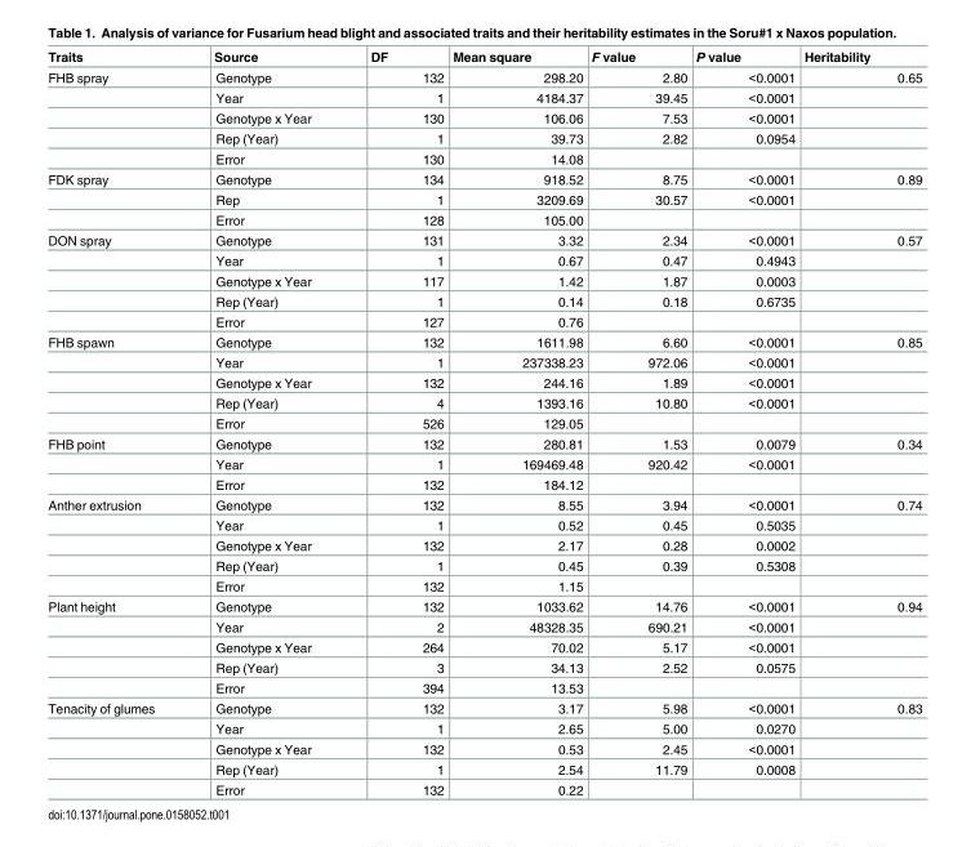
<table><thead><tr><td>Traits</td><td>Source</td><td>DF</td><td>Mean square</td><td>F value</td><td>P value</td><td>Heritability</td></tr></thead><tbody><tr><td rowspan="5">FHB spray</td><td>Genotype</td><td>132</td><td>298.20</td><td>2.80</td><td>&lt;0.0001</td><td>0.65</td></tr><tr><td>Year</td><td>1</td><td>4184.37</td><td>39.45</td><td>&lt;0.0001</td><td></td></tr><tr><td>Genotype x Year</td><td>130</td><td>106.06</td><td>7.53</td><td>&lt;0.0001</td><td></td></tr><tr><td>Rep (Year)</td><td>1</td><td>39.73</td><td>2.82</td><td>0.0954</td><td></td></tr><tr><td>Error</td><td>130</td><td>14.08</td><td></td><td></td><td></td></tr><tr><td rowspan="3">FDK spray</td><td>Genotype</td><td>134</td><td>918.52</td><td>8.75</td><td>&lt;0.0001</td><td>0.89</td></tr><tr><td>Rep</td><td>1</td><td>3209.69</td><td>30.57</td><td>&lt;0.0001</td><td></td></tr><tr><td>Error</td><td>128</td><td>105.00</td><td></td><td></td><td></td></tr><tr><td rowspan="5">DON spray</td><td>Genotype</td><td>131</td><td>3.32</td><td>2.34</td><td>&lt;0.0001</td><td>0.57</td></tr><tr><td>Year</td><td>1</td><td>0.67</td><td>0.47</td><td>0.4943</td><td></td></tr><tr><td>Genotype x Year</td><td>117</td><td>1.42</td><td>1.87</td><td>0.0003</td><td></td></tr><tr><td>Rep (Year)</td><td>1</td><td>0.14</td><td>0.18</td><td>0.6735</td><td></td></tr><tr><td>Error</td><td>127</td><td>0.76</td><td></td><td></td><td></td></tr><tr><td rowspan="5">FHB spawn</td><td>Genotype</td><td>132</td><td>1611.98</td><td>6.60</td><td>&lt;0.0001</td><td>0.85</td></tr><tr><td>Year</td><td>1</td><td>237338.23</td><td>972.06</td><td>&lt;0.0001</td><td></td></tr><tr><td>Genotype x Year</td><td>132</td><td>244.16</td><td>1.89</td><td>&lt;0.0001</td><td></td></tr><tr><td>Rep (Year)</td><td>4</td><td>1393.16</td><td>10.80</td><td>&lt;0.0001</td><td></td></tr><tr><td>Error</td><td>526</td><td>129.05</td><td></td><td></td><td></td></tr><tr><td rowspan="3">FHB point</td><td>Genotype</td><td>132</td><td>280.81</td><td>1.53</td><td>0.0079</td><td>0.34</td></tr><tr><td>Year</td><td>1</td><td>169469.48</td><td>920.42</td><td>&lt;0.0001</td><td></td></tr><tr><td>Error</td><td>132</td><td>184.12</td><td></td><td></td><td></td></tr><tr><td rowspan="5">Anther extrusion</td><td>Genotype</td><td>132</td><td>8.55</td><td>3.94</td><td>&lt;0.0001</td><td>0.74</td></tr><tr><td>Year</td><td>1</td><td>0.52</td><td>0.45</td><td>0.5035</td><td></td></tr><tr><td>Genotype x Year</td><td>132</td><td>2.17</td><td>0.28</td><td>0.0002</td><td></td></tr><tr><td>Rep (Year)</td><td>1</td><td>0.45</td><td>0.39</td><td>0.5308</td><td></td></tr><tr><td>Error</td><td>132</td><td>1.15</td><td></td><td></td><td></td></tr><tr><td rowspan="5">Plant height</td><td>Genotype</td><td>132</td><td>1033.62</td><td>14.76</td><td>&lt;0.0001</td><td>0.94</td></tr><tr><td>Year</td><td>2</td><td>48328.35</td><td>690.21</td><td>&lt;0.0001</td><td></td></tr><tr><td>Genotype x Year</td><td>264</td><td>70.02</td><td>5.17</td><td>&lt;0.0001</td><td></td></tr><tr><td>Rep (Year)</td><td>3</td><td>34.13</td><td>2.52</td><td>0.0575</td><td></td></tr><tr><td>Error</td><td>394</td><td>13.53</td><td></td><td></td><td></td></tr><tr><td rowspan="5">Tenacity of glumes</td><td>Genotype</td><td>132</td><td>3.17</td><td>5.98</td><td>&lt;0.0001</td><td>0.83</td></tr><tr><td>Year</td><td>1</td><td>2.65</td><td>5.00</td><td>0.0270</td><td></td></tr><tr><td>Genotype x Year</td><td>132</td><td>0.53</td><td>2.45</td><td>&lt;0.0001</td><td></td></tr><tr><td>Rep (Year)</td><td>1</td><td>2.54</td><td>11.79</td><td>0.0008</td><td></td></tr><tr><td>Error</td><td>132</td><td>0.22</td><td></td><td></td><td></td></tr></tbody></table>